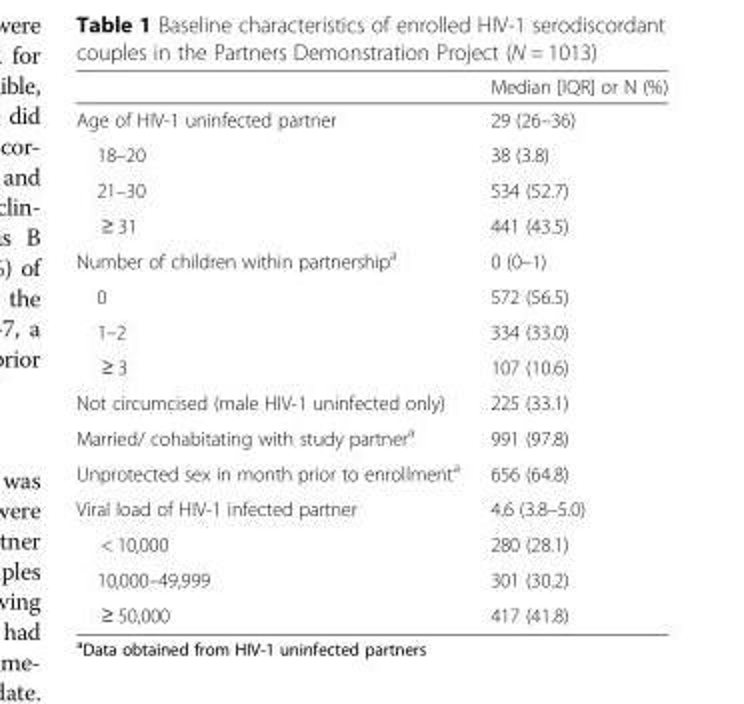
<table><thead><tr><td></td><td>Median [IQR] or N (%)</td></tr></thead><tbody><tr><td>Age of HIV-1 uninfected partner</td><td>29 (26–36)</td></tr><tr><td>18–20</td><td>38 (3.8)</td></tr><tr><td>21–30</td><td>534 (52.7)</td></tr><tr><td>≥ 31</td><td>441 (43.5)</td></tr><tr><td>Number of children within partnership<sup>a</sup></td><td>0 (0–1)</td></tr><tr><td>0</td><td>572 (56.5)</td></tr><tr><td>1–2</td><td>334 (33.0)</td></tr><tr><td>≥ 3</td><td>107 (10.6)</td></tr><tr><td>Not circumcised (male HIV-1 uninfected only)</td><td>225 (33.1)</td></tr><tr><td>Married/ cohabitating with study partner<sup>a</sup></td><td>991 (97.8)</td></tr><tr><td>Unprotected sex in month prior to enrollment<sup>a</sup></td><td>656 (64.8)</td></tr><tr><td>Viral load of HIV-1 infected partner</td><td>4.6 (3.8–5.0)</td></tr><tr><td>&lt; 10,000</td><td>280 (28.1)</td></tr><tr><td>10,000–49,999</td><td>301 (30.2)</td></tr><tr><td>≥ 50,000</td><td>417 (41.8)</td></tr></tbody></table>